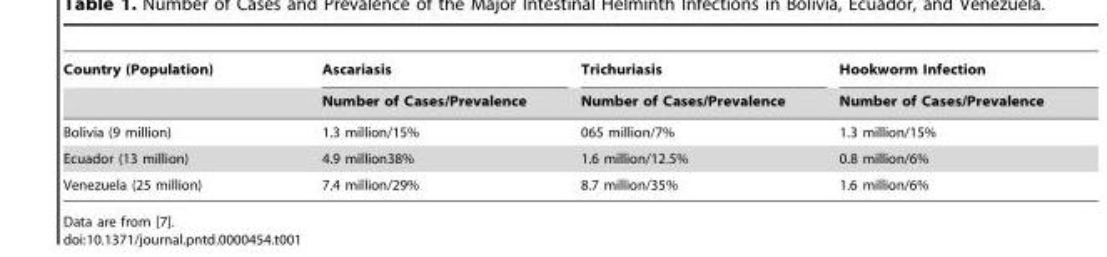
<table><thead><tr><td rowspan="2">Country (Population)</td><td rowspan="2">Ascariasis Number of Cases/Prevalence</td><td rowspan="2">Trichuriasis Number of Cases/Prevalence</td><td rowspan="2">Hookworm Infection Number of Cases/Prevalence</td></tr><tr></tr></thead><tbody><tr><td>Bolivia (9 million)</td><td>1.3 million/15%</td><td>065 million/7%</td><td>1.3 million/15%</td></tr><tr><td>Ecuador (13 million)</td><td>4.9 million38%</td><td>1.6 million/12.5%</td><td>0.8 million/6%</td></tr><tr><td>Venezuela (25 million)</td><td>7.4 million/29%</td><td>8.7 million/35%</td><td>1.6 million/6%</td></tr></tbody></table>